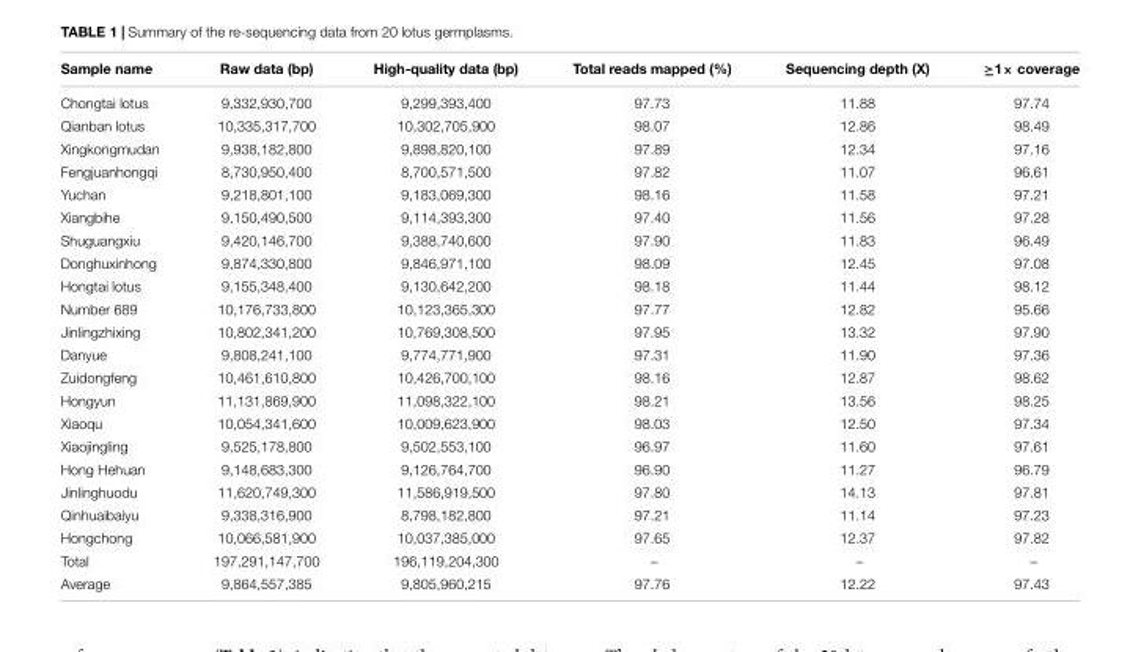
<table><thead><tr><td>Sample name</td><td>Raw data (bp)</td><td>High-quality data (bp)</td><td>Total reads mapped (%)</td><td>Sequencing depth (X)</td><td>≥1× coverage</td></tr></thead><tbody><tr><td>Chongtai lotus</td><td>9,332,930,700</td><td>9,299,393,400</td><td>97.73</td><td>11.88</td><td>97.74</td></tr><tr><td>Qianban lotus</td><td>10,335,317,700</td><td>10,302,705,900</td><td>98.07</td><td>12.86</td><td>98.49</td></tr><tr><td>Xingkongmudan</td><td>9,938,182,800</td><td>9,898,820,100</td><td>97.89</td><td>12.34</td><td>97.16</td></tr><tr><td>Fengjuanhongqi</td><td>8,730,950,400</td><td>8,700,571,500</td><td>97.82</td><td>11.07</td><td>96.61</td></tr><tr><td>Yuchan</td><td>9,218,801,100</td><td>9,183,069,300</td><td>98.16</td><td>11.58</td><td>97.21</td></tr><tr><td>Xiangbihe</td><td>9,150,490,500</td><td>9,114,393,300</td><td>97.40</td><td>11.56</td><td>97.28</td></tr><tr><td>Shuguangxiu</td><td>9,420,146,700</td><td>9,388,740,600</td><td>97.90</td><td>11.83</td><td>96.49</td></tr><tr><td>Donghuxinhong</td><td>9,874,330,800</td><td>9,846,971,100</td><td>98.09</td><td>12.45</td><td>97.08</td></tr><tr><td>Hongtai lotus</td><td>9,155,348,400</td><td>9,130,642,200</td><td>98.18</td><td>11.44</td><td>98.12</td></tr><tr><td>Number 689</td><td>10,176,733,800</td><td>10,123,365,300</td><td>97.77</td><td>12.82</td><td>95.66</td></tr><tr><td>Jinlingzhixing</td><td>10,802,341,200</td><td>10,769,308,500</td><td>97.95</td><td>13.32</td><td>97.90</td></tr><tr><td>Danyue</td><td>9,808,241,100</td><td>9,774,771,900</td><td>97.31</td><td>11.90</td><td>97.36</td></tr><tr><td>Zuidongfeng</td><td>10,461,610,800</td><td>10,426,700,100</td><td>98.16</td><td>12.87</td><td>98.62</td></tr><tr><td>Hongyun</td><td>11,131,869,900</td><td>11,098,322,100</td><td>98.21</td><td>13.56</td><td>98.25</td></tr><tr><td>Xiaoqu</td><td>10,054,341,600</td><td>10,009,623,900</td><td>98.03</td><td>12.50</td><td>97.34</td></tr><tr><td>Xiaojingling</td><td>9,525,178,800</td><td>9,502,553,100</td><td>96.97</td><td>11.60</td><td>97.61</td></tr><tr><td>Hong Hehuan</td><td>9,148,683,300</td><td>9,126,764,700</td><td>96.90</td><td>11.27</td><td>96.79</td></tr><tr><td>Jinlinghuodu</td><td>11,620,749,300</td><td>11,586,919,500</td><td>97.80</td><td>14.13</td><td>97.81</td></tr><tr><td>Qinhuaibaiyu</td><td>9,338,316,900</td><td>8,798,182,800</td><td>97.21</td><td>11.14</td><td>97.23</td></tr><tr><td>Hongchong</td><td>10,066,581,900</td><td>10,037,385,000</td><td>97.65</td><td>12.37</td><td>97.82</td></tr><tr><td>Total</td><td>197,291,147,700</td><td>196,119,204,300</td><td>–</td><td>–</td><td>–</td></tr><tr><td>Average</td><td>9,864,557,385</td><td>9,805,960,215</td><td>97.76</td><td>12.22</td><td>97.43</td></tr></tbody></table>